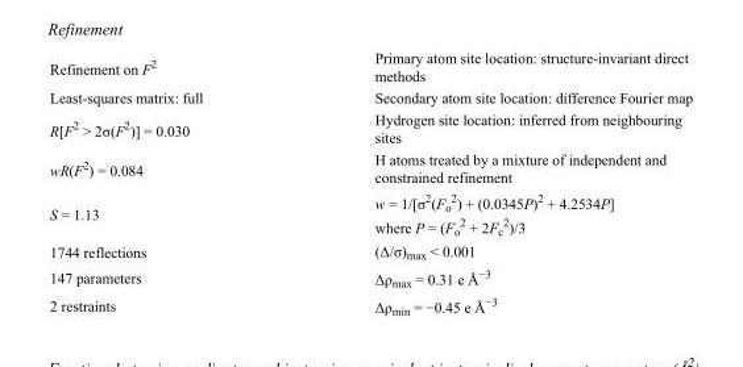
<table><tbody><tr><td>Refinement on F<sup>2</sup></td><td>Primary atom site location: structure-invariant direct methods</td></tr><tr><td>Least-squares matrix: full</td><td>Secondary atom site location: difference Fourier map</td></tr><tr><td>R[F<sup>2</sup> &gt; 2σ(F<sup>2</sup>)] = 0.030</td><td>Hydrogen site location: inferred from neighbouring sites</td></tr><tr><td>wR(F<sup>2</sup>) = 0.084</td><td>H atoms treated by a mixture of independent and constrained refinement</td></tr><tr><td>S = 1.13</td><td>w = 1/[σ<sup>2</sup>(F<sub>o</sub> <sup>2</sup>) + (0.0345P)<sup>2</sup> + 4.2534P] where P = (F<sub>o</sub> <sup>2</sup> + 2F<sub>c</sub> <sup>2</sup>)/3</td></tr><tr><td>1744 reflections</td><td>(Δ/σ)<sub>max</sub> &lt; 0.001</td></tr><tr><td>147 parameters</td><td>Δρ<sub>max</sub> = 0.31 e Å<sup>−3</sup></td></tr><tr><td>2 restraints</td><td>Δρ<sub>min</sub> = −0.45 e Å<sup>−3</sup></td></tr></tbody></table>